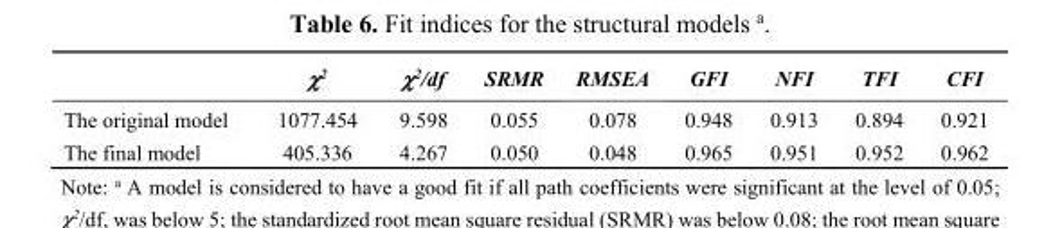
<table><thead><tr><td></td><td>χ<sup>2</sup></td><td>χ<sup>2</sup>/df</td><td>SRMR</td><td>RMSEA</td><td>GFI</td><td>NFI</td><td>TFI</td><td>CFI</td></tr></thead><tbody><tr><td>The original model</td><td>1077.454</td><td>9.598</td><td>0.055</td><td>0.078</td><td>0.948</td><td>0.913</td><td>0.894</td><td>0.921</td></tr><tr><td>The final model</td><td>405.336</td><td>4.267</td><td>0.050</td><td>0.048</td><td>0.965</td><td>0.951</td><td>0.952</td><td>0.962</td></tr></tbody></table>